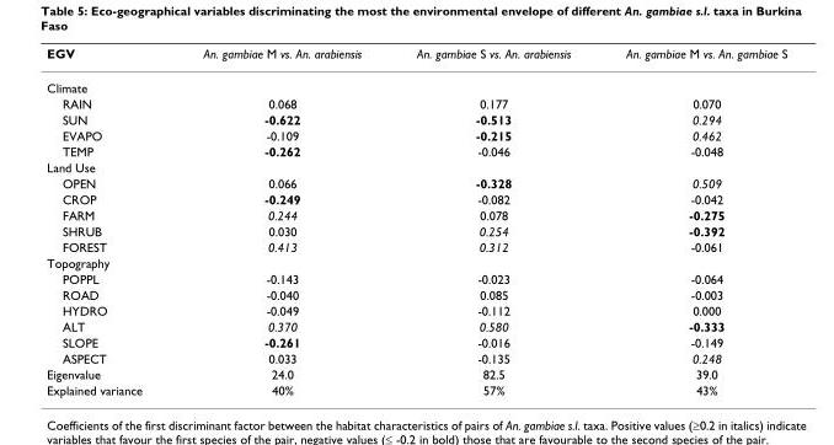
<table><thead><tr><td>EGV</td><td>An. gambiae M vs. An. arabiensis</td><td>An. gambiae S vs. An. arabiensis</td><td>An. gambiae M vs. An. gambiae S</td></tr></thead><tbody><tr><td colspan="4">Climate</td></tr><tr><td>RAIN</td><td>0.068</td><td>0.177</td><td>0.070</td></tr><tr><td>SUN</td><td>-0.622</td><td>-0.513</td><td>0.294</td></tr><tr><td>EVAPO</td><td>-0.109</td><td>-0.215</td><td>0.462</td></tr><tr><td>TEMP</td><td>-0.262</td><td>-0.046</td><td>-0.048</td></tr><tr><td colspan="4">Land Use</td></tr><tr><td>OPEN</td><td>0.066</td><td>-0.328</td><td>0.509</td></tr><tr><td>CROP</td><td>-0.249</td><td>-0.082</td><td>-0.042</td></tr><tr><td>FARM</td><td>0.244</td><td>0.078</td><td>-0.275</td></tr><tr><td>SHRUB</td><td>0.030</td><td>0.254</td><td>-0.392</td></tr><tr><td>FOREST</td><td>0.413</td><td>0.312</td><td>-0.061</td></tr><tr><td colspan="4">Topography</td></tr><tr><td>POPPL</td><td>-0.143</td><td>-0.023</td><td>-0.064</td></tr><tr><td>ROAD</td><td>-0.040</td><td>0.085</td><td>-0.003</td></tr><tr><td>HYDRO</td><td>-0.049</td><td>-0.112</td><td>0.000</td></tr><tr><td>ALT</td><td>0.370</td><td>0.580</td><td>-0.333</td></tr><tr><td>SLOPE</td><td>-0.261</td><td>-0.016</td><td>-0.149</td></tr><tr><td>ASPECT</td><td>0.033</td><td>-0.135</td><td>0.248</td></tr><tr><td>Eigenvalue</td><td>24.0</td><td>82.5</td><td>39.0</td></tr><tr><td>Explained variance</td><td>40%</td><td>57%</td><td>43%</td></tr></tbody></table>